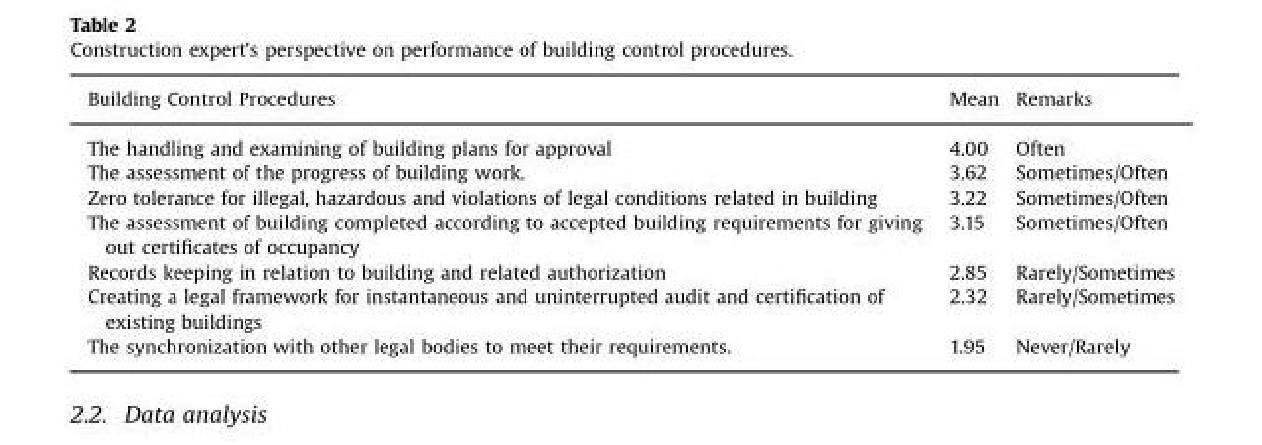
<table><thead><tr><td>Building Control Procedures</td><td>Mean</td><td>Remarks</td></tr></thead><tbody><tr><td>The handling and examining of building plans for approval</td><td>4.00</td><td>Often</td></tr><tr><td>The assessment of the progress of building work.</td><td>3.62</td><td>Sometimes/Often</td></tr><tr><td>Zero tolerance for illegal, hazardous and violations of legal conditions related in building</td><td>3.22</td><td>Sometimes/Often</td></tr><tr><td>The assessment of building completed according to accepted building requirements for giving out certificates of occupancy</td><td>3.15</td><td>Sometimes/Often</td></tr><tr><td>Records keeping in relation to building and related authorization</td><td>2.85</td><td>Rarely/Sometimes</td></tr><tr><td>Creating a legal framework for instantaneous and uninterrupted audit and certification of existing buildings</td><td>2.32</td><td>Rarely/Sometimes</td></tr><tr><td>The synchronization with other legal bodies to meet their requirements.</td><td>1.95</td><td>Never/Rarely</td></tr></tbody></table>